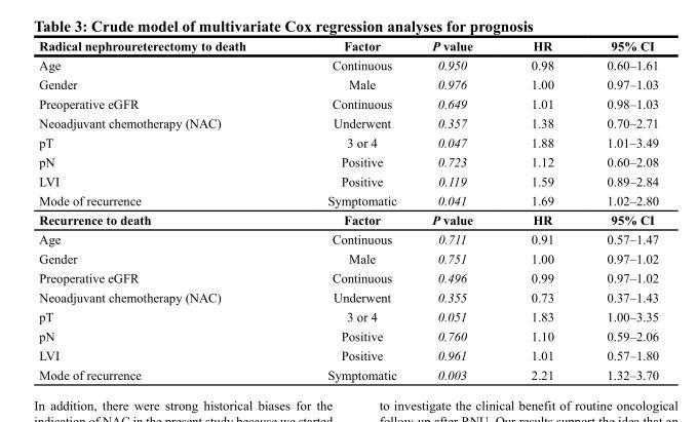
<table><thead><tr><td>Radical nephroureterectomy to death</td><td>Factor</td><td>P value</td><td>HR</td><td>95% CI</td></tr></thead><tbody><tr><td>Age</td><td>Continuous</td><td>0.950</td><td>0.98</td><td>0.60–1.61</td></tr><tr><td>Gender</td><td>Male</td><td>0.976</td><td>1.00</td><td>0.97–1.03</td></tr><tr><td>Preoperative eGFR</td><td>Continuous</td><td>0.649</td><td>1.01</td><td>0.98–1.03</td></tr><tr><td>Neoadjuvant chemotherapy (NAC)</td><td>Underwent</td><td>0.357</td><td>1.38</td><td>0.70–2.71</td></tr><tr><td>pT</td><td>3 or 4</td><td>0.047</td><td>1.88</td><td>1.01–3.49</td></tr><tr><td>pN</td><td>Positive</td><td>0.723</td><td>1.12</td><td>0.60–2.08</td></tr><tr><td>LVI</td><td>Positive</td><td>0.119</td><td>1.59</td><td>0.89–2.84</td></tr><tr><td>Mode of recurrence</td><td>Symptomatic</td><td>0.041</td><td>1.69</td><td>1.02–2.80</td></tr><tr><td>Recurrence to death</td><td>Factor</td><td>P value</td><td>HR</td><td>95% CI</td></tr><tr><td>Age</td><td>Continuous</td><td>0.711</td><td>0.91</td><td>0.57–1.47</td></tr><tr><td>Gender</td><td>Male</td><td>0.751</td><td>1.00</td><td>0.97–1.02</td></tr><tr><td>Preoperative eGFR</td><td>Continuous</td><td>0.496</td><td>0.99</td><td>0.97–1.02</td></tr><tr><td>Neoadjuvant chemotherapy (NAC)</td><td>Underwent</td><td>0.355</td><td>0.73</td><td>0.37–1.43</td></tr><tr><td>pT</td><td>3 or 4</td><td>0.051</td><td>1.83</td><td>1.00–3.35</td></tr><tr><td>pN</td><td>Positive</td><td>0.760</td><td>1.10</td><td>0.59–2.06</td></tr><tr><td>LVI</td><td>Positive</td><td>0.961</td><td>1.01</td><td>0.57–1.80</td></tr><tr><td>Mode of recurrence</td><td>Symptomatic</td><td>0.003</td><td>2.21</td><td>1.32–3.70</td></tr></tbody></table>